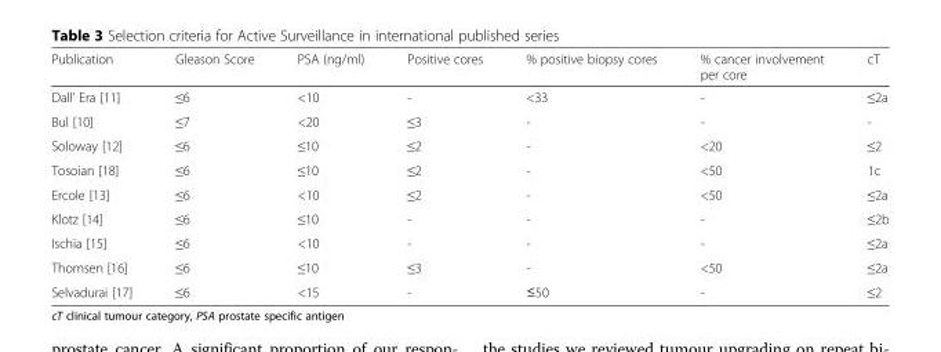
<table><thead><tr><td>Publication</td><td>Gleason Score</td><td>PSA (ng/ml)</td><td>Positive cores</td><td>% positive biopsy cores</td><td>% cancer involvement per core</td><td>cT</td></tr></thead><tbody><tr><td>Dall’ Era [11]</td><td>≤6</td><td>&lt;10</td><td>-</td><td>&lt;33</td><td>-</td><td>≤2a</td></tr><tr><td>Bul [10]</td><td>≤7</td><td>&lt;20</td><td>≤3</td><td>-</td><td>-</td><td>-</td></tr><tr><td>Soloway [12]</td><td>≤6</td><td>≤10</td><td>≤2</td><td>-</td><td>&lt;20</td><td>≤2</td></tr><tr><td>Tosoian [18]</td><td>≤6</td><td>≤10</td><td>≤2</td><td>-</td><td>&lt;50</td><td>1c</td></tr><tr><td>Ercole [13]</td><td>≤6</td><td>&lt;10</td><td>≤2</td><td>-</td><td>&lt;50</td><td>≤2a</td></tr><tr><td>Klotz [14]</td><td>≤6</td><td>≤10</td><td>-</td><td>-</td><td>-</td><td>≤2b</td></tr><tr><td>Ischia [15]</td><td>≤6</td><td>&lt;10</td><td>-</td><td>-</td><td>-</td><td>≤2a</td></tr><tr><td>Thomsen [16]</td><td>≤6</td><td>≤10</td><td>≤3</td><td>-</td><td>&lt;50</td><td>≤2a</td></tr><tr><td>Selvadurai [17]</td><td>≤6</td><td>&lt;15</td><td>-</td><td>≤50</td><td>-</td><td>≤2</td></tr></tbody></table>